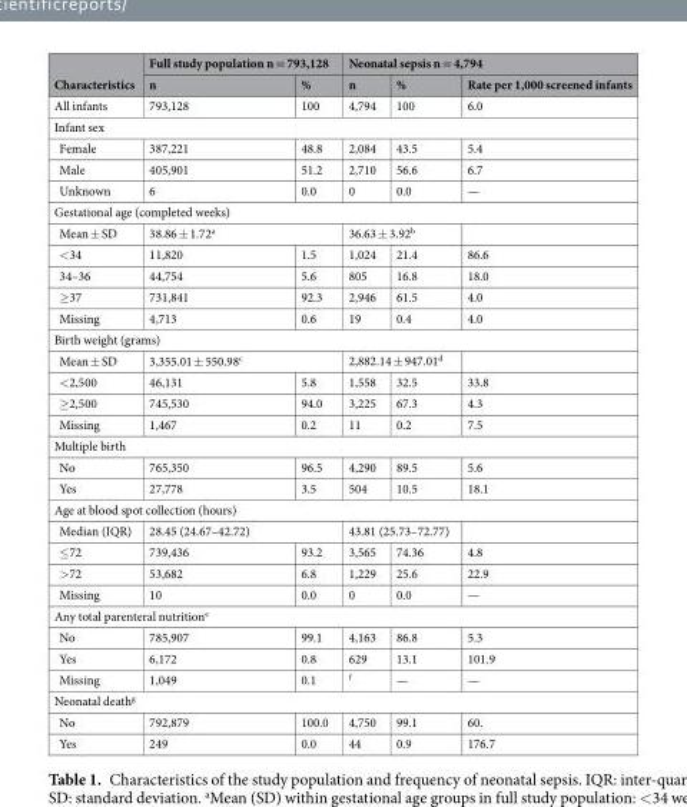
<table><thead><tr><td rowspan="2">Characteristics</td><td colspan="2">Full study population n = 793,128</td><td colspan="3">Neonatal sepsis n = 4,794</td></tr><tr><td>n</td><td>%</td><td>n</td><td>%</td><td>Rate per 1,000 screened infants</td></tr></thead><tbody><tr><td>All infants</td><td>793,128</td><td>100</td><td>4,794</td><td>100</td><td>6.0</td></tr><tr><td colspan="6">Infant sex</td></tr><tr><td>Female</td><td>387,221</td><td>48.8</td><td>2,084</td><td>43.5</td><td>5.4</td></tr><tr><td>Male</td><td>405,901</td><td>51.2</td><td>2,710</td><td>56.6</td><td>6.7</td></tr><tr><td>Unknown</td><td>6</td><td>0.0</td><td>0</td><td>0.0</td><td>—</td></tr><tr><td colspan="6">Gestational age (completed weeks)</td></tr><tr><td>Mean ± SD</td><td colspan="2">38.86 ± 1.72<sup>a</sup></td><td colspan="2">36.63 ± 3.92<sup>b</sup></td><td></td></tr><tr><td>&lt;34</td><td>11,820</td><td>1.5</td><td>1,024</td><td>21.4</td><td>86.6</td></tr><tr><td>34–36</td><td>44,754</td><td>5.6</td><td>805</td><td>16.8</td><td>18.0</td></tr><tr><td>≥37</td><td>731,841</td><td>92.3</td><td>2,946</td><td>61.5</td><td>4.0</td></tr><tr><td>Missing</td><td>4,713</td><td>0.6</td><td>19</td><td>0.4</td><td>4.0</td></tr><tr><td colspan="6">Birth weight (grams)</td></tr><tr><td>Mean ± SD</td><td colspan="2">3,355.01 ± 550.98<sup>c</sup></td><td colspan="2">2,882.14 ± 947.01<sup>d</sup></td><td></td></tr><tr><td>&lt;2,500</td><td>46,131</td><td>5.8</td><td>1,558</td><td>32.5</td><td>33.8</td></tr><tr><td>≥2,500</td><td>745,530</td><td>94.0</td><td>3,225</td><td>67.3</td><td>4.3</td></tr><tr><td>Missing</td><td>1,467</td><td>0.2</td><td>11</td><td>0.2</td><td>7.5</td></tr><tr><td colspan="6">Multiple birth</td></tr><tr><td>No</td><td>765,350</td><td>96.5</td><td>4,290</td><td>89.5</td><td>5.6</td></tr><tr><td>Yes</td><td>27,778</td><td>3.5</td><td>504</td><td>10.5</td><td>18.1</td></tr><tr><td colspan="6">Age at blood spot collection (hours)</td></tr><tr><td>Median (IQR)</td><td colspan="2">28.45 (24.67–42.72)</td><td colspan="2">43.81 (25.73–72.77)</td><td></td></tr><tr><td>≤72</td><td>739,436</td><td>93.2</td><td>3,565</td><td>74.36</td><td>4.8</td></tr><tr><td>&gt;72</td><td>53,682</td><td>6.8</td><td>1,229</td><td>25.6</td><td>22.9</td></tr><tr><td>Missing</td><td>10</td><td>0.0</td><td>0</td><td>0.0</td><td>—</td></tr><tr><td colspan="6">Any total parenteral nutrition<sup>e</sup></td></tr><tr><td>No</td><td>785,907</td><td>99.1</td><td>4,163</td><td>86.8</td><td>5.3</td></tr><tr><td>Yes</td><td>6,172</td><td>0.8</td><td>629</td><td>13.1</td><td>101.9</td></tr><tr><td>Missing</td><td>1,049</td><td>0.1</td><td><sup>f</sup></td><td>—</td><td>—</td></tr><tr><td colspan="6">Neonatal death<sup>g</sup></td></tr><tr><td>No</td><td>792,879</td><td>100.0</td><td>4,750</td><td>99.1</td><td>60.</td></tr><tr><td>Yes</td><td>249</td><td>0.0</td><td>44</td><td>0.9</td><td>176.7</td></tr></tbody></table>